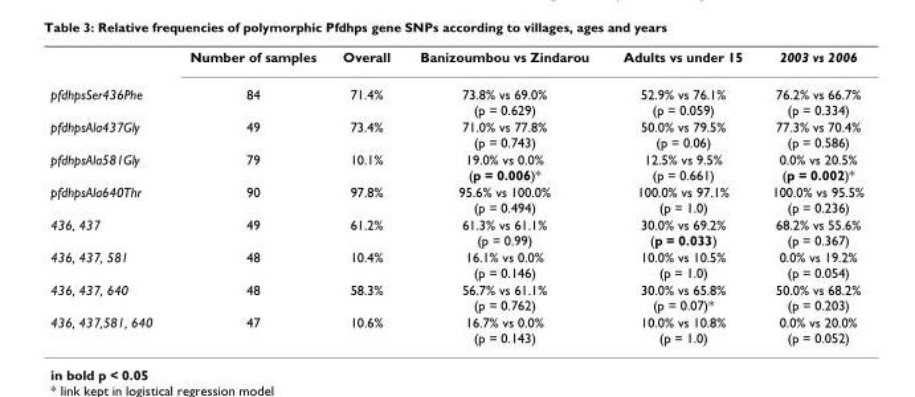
<table><thead><tr><td></td><td>Number of samples</td><td>Overall</td><td>Banizoumbou vs Zindarou</td><td>Adults vs under 15</td><td>2003 vs 2006</td></tr></thead><tbody><tr><td>pfdhpsSer436Phe</td><td>84</td><td>71.4%</td><td>73.8% vs 69.0% (p = 0.629)</td><td>52.9% vs 76.1% (p = 0.059)</td><td>76.2% vs 66.7% (p = 0.334)</td></tr><tr><td>pfdhpsAla437Gly</td><td>49</td><td>73.4%</td><td>71.0% vs 77.8% (p = 0.743)</td><td>50.0% vs 79.5% (p = 0.06)</td><td>77.3% vs 70.4% (p = 0.586)</td></tr><tr><td>pfdhpsAla581Gly</td><td>79</td><td>10.1%</td><td>19.0% vs 0.0% (p = 0.006)*</td><td>12.5% vs 9.5% (p = 0.661)</td><td>0.0% vs 20.5% (p = 0.002)*</td></tr><tr><td>pfdhpsAla640Thr</td><td>90</td><td>97.8%</td><td>95.6% vs 100.0% (p = 0.494)</td><td>100.0% vs 97.1% (p = 1.0)</td><td>100.0% vs 95.5% (p = 0.236)</td></tr><tr><td>436, 437</td><td>49</td><td>61.2%</td><td>61.3% vs 61.1% (p = 0.99)</td><td>30.0% vs 69.2% (p = 0.033)</td><td>68.2% vs 55.6% (p = 0.367)</td></tr><tr><td>436, 437, 581</td><td>48</td><td>10.4%</td><td>16.1% vs 0.0% (p = 0.146)</td><td>10.0% vs 10.5% (p = 1.0)</td><td>0.0% vs 19.2% (p = 0.054)</td></tr><tr><td>436, 437, 640</td><td>48</td><td>58.3%</td><td>56.7% vs 61.1% (p = 0.762)</td><td>30.0% vs 65.8% (p = 0.07)*</td><td>50.0% vs 68.2% (p = 0.203)</td></tr><tr><td>436, 437,581, 640</td><td>47</td><td>10.6%</td><td>16.7% vs 0.0% (p = 0.143)</td><td>10.0% vs 10.8% (p = 1.0)</td><td>0.0% vs 20.0% (p = 0.052)</td></tr></tbody></table>